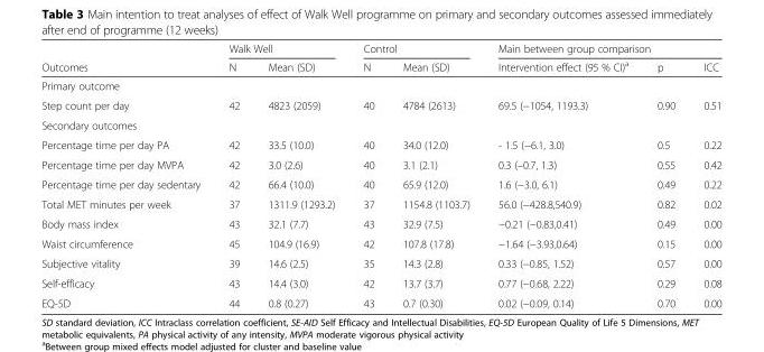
<table><thead><tr><td rowspan="2">Outcomes</td><td colspan="2">Walk Well</td><td colspan="2">Control</td><td colspan="3">Main between group comparison</td></tr><tr><td>N</td><td>Mean (SD)</td><td>N</td><td>Mean (SD)</td><td>Intervention effect (95 % CI)<sup>a</sup></td><td>p</td><td>ICC</td></tr></thead><tbody><tr><td colspan="8">Primary outcome</td></tr><tr><td>Step count per day</td><td>42</td><td>4823 (2059)</td><td>40</td><td>4784 (2613)</td><td>69.5 (−1054, 1193.3)</td><td>0.90</td><td>0.51</td></tr><tr><td colspan="8">Secondary outcomes</td></tr><tr><td>Percentage time per day PA</td><td>42</td><td>33.5 (10.0)</td><td>40</td><td>34.0 (12.0)</td><td>- 1.5 (−6.1, 3.0)</td><td>0.5</td><td>0.22</td></tr><tr><td>Percentage time per day MVPA</td><td>42</td><td>3.0 (2.6)</td><td>40</td><td>3.1 (2.1)</td><td>0.3 (–0.7, 1.3)</td><td>0.55</td><td>0.42</td></tr><tr><td>Percentage time per day sedentary</td><td>42</td><td>66.4 (10.0)</td><td>40</td><td>65.9 (12.0)</td><td>1.6 (−3.0, 6.1)</td><td>0.49</td><td>0.22</td></tr><tr><td>Total MET minutes per week</td><td>37</td><td>1311.9 (1293.2)</td><td>37</td><td>1154.8 (1103.7)</td><td>56.0 (−428.8,540.9)</td><td>0.82</td><td>0.02</td></tr><tr><td>Body mass index</td><td>43</td><td>32.1 (7.7)</td><td>43</td><td>32.9 (7.5)</td><td>−0.21 (−0.83,0.41)</td><td>0.49</td><td>0.00</td></tr><tr><td>Waist circumference</td><td>45</td><td>104.9 (16.9)</td><td>42</td><td>107.8 (17.8)</td><td>−1.64 (−3.93,0.64)</td><td>0.15</td><td>0.00</td></tr><tr><td>Subjective vitality</td><td>39</td><td>14.6 (2.5)</td><td>35</td><td>14.3 (2.8)</td><td>0.33 (−0.85, 1.52)</td><td>0.57</td><td>0.00</td></tr><tr><td>Self-efficacy</td><td>43</td><td>14.4 (3.0)</td><td>42</td><td>13.7 (3.7)</td><td>0.77 (−0.68, 2.22)</td><td>0.29</td><td>0.08</td></tr><tr><td>EQ-5D</td><td>44</td><td>0.8 (0.27)</td><td>43</td><td>0.7 (0.30)</td><td>0.02 (−0.09, 0.14)</td><td>0.70</td><td>0.00</td></tr></tbody></table>